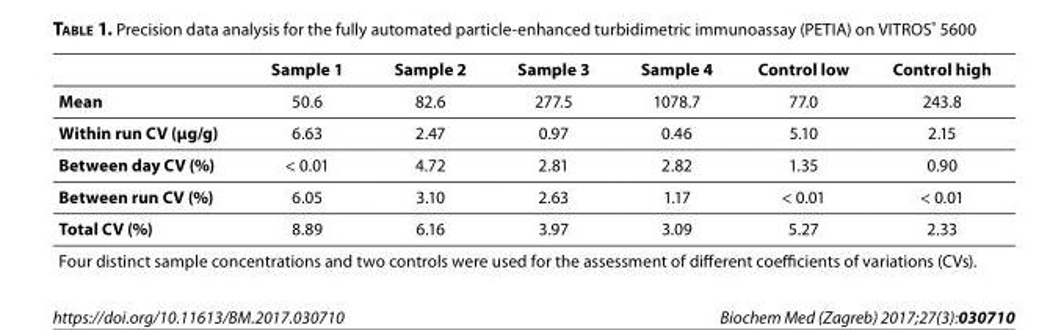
<table><thead><tr><td></td><td>Sample 1</td><td>Sample 2</td><td>Sample 3</td><td>Sample 4</td><td>Control low</td><td>Control high</td></tr></thead><tbody><tr><td>Mean</td><td>50.6</td><td>82.6</td><td>277.5</td><td>1078.7</td><td>77.0</td><td>243.8</td></tr><tr><td>Within run CV (µg/g)</td><td>6.63</td><td>2.47</td><td>0.97</td><td>0.46</td><td>5.10</td><td>2.15</td></tr><tr><td>Between day CV (%)</td><td>&lt; 0.01</td><td>4.72</td><td>2.81</td><td>2.82</td><td>1.35</td><td>0.90</td></tr><tr><td>Between run CV (%)</td><td>6.05</td><td>3.10</td><td>2.63</td><td>1.17</td><td>&lt; 0.01</td><td>&lt; 0.01</td></tr><tr><td>Total CV (%)</td><td>8.89</td><td>6.16</td><td>3.97</td><td>3.09</td><td>5.27</td><td>2.33</td></tr><tr><td colspan="7">Four distinct sample concentrations and two controls were used for the assessment of different coefficients of variations (CVs).</td></tr></tbody></table>